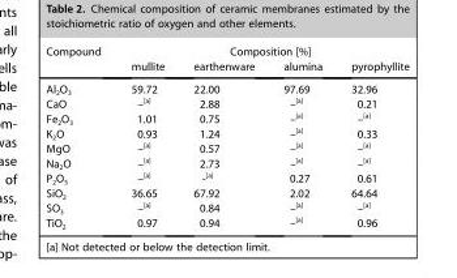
<table><thead><tr><td rowspan="2">Compound</td><td colspan="4">Composition [%]</td></tr><tr><td>mullite</td><td>earthenware</td><td>alumina</td><td>pyrophyllite</td></tr></thead><tbody><tr><td>Al<sub>2</sub>O<sub>3</sub></td><td>59.72</td><td>22.00</td><td>97.69</td><td>32.96</td></tr><tr><td>CaO</td><td>–<sup>[a]</sup></td><td>2.88</td><td>–<sup>[a]</sup></td><td>0.21</td></tr><tr><td>Fe<sub>2</sub>O<sub>3</sub></td><td>1.01</td><td>0.75</td><td>–<sup>[a]</sup></td><td>–<sup>[a]</sup></td></tr><tr><td>K<sub>2</sub>O</td><td>0.93</td><td>1.24</td><td>–<sup>[a]</sup></td><td>0.33</td></tr><tr><td>MgO</td><td>–<sup>[a]</sup></td><td>0.57</td><td>–<sup>[a]</sup></td><td>–<sup>[a]</sup></td></tr><tr><td>Na<sub>2</sub>O</td><td>–<sup>[a]</sup></td><td>2.73</td><td>–<sup>[a]</sup></td><td>–<sup>[a]</sup></td></tr><tr><td>P<sub>2</sub>O<sub>5</sub></td><td>–<sup>[a]</sup></td><td>-<sup>[a]</sup></td><td>0.27</td><td>0.61</td></tr><tr><td>SiO<sub>2</sub></td><td>36.65</td><td>67.92</td><td>2.02</td><td>64.64</td></tr><tr><td>SO<sub>3</sub></td><td>–<sup>[a]</sup></td><td>0.84</td><td>–<sup>[a]</sup></td><td>–<sup>[a]</sup></td></tr><tr><td>TiO<sub>2</sub></td><td>0.97</td><td>0.94</td><td>–<sup>[a]</sup></td><td>0.96</td></tr></tbody></table>